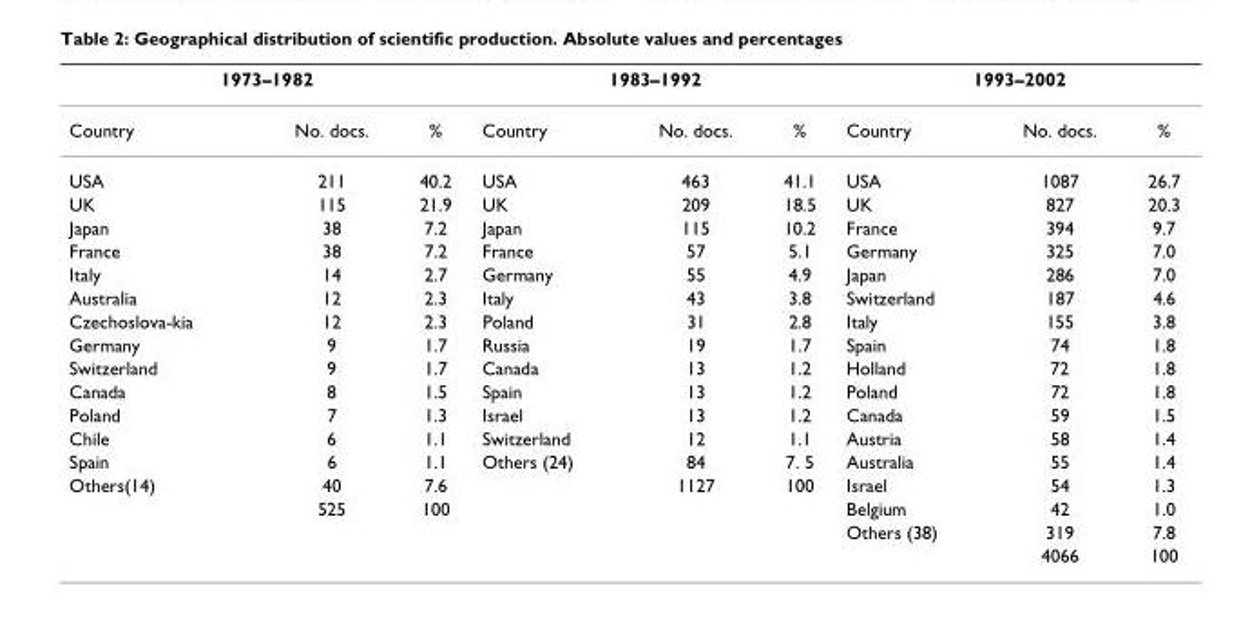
<table><thead><tr><td colspan="3">1973–1982</td><td colspan="3">1983–1992</td><td colspan="3">1993–2002</td></tr><tr><td>Country</td><td>No. docs.</td><td>%</td><td>Country</td><td>No. docs.</td><td>%</td><td>Country</td><td>No. docs.</td><td>%</td></tr></thead><tbody><tr><td>USA</td><td>211</td><td>40.2</td><td>USA</td><td>463</td><td>41.1</td><td>USA</td><td>1087</td><td>26.7</td></tr><tr><td>UK</td><td>115</td><td>21.9</td><td>UK</td><td>209</td><td>18.5</td><td>UK</td><td>827</td><td>20.3</td></tr><tr><td>Japan</td><td>38</td><td>7.2</td><td>Japan</td><td>115</td><td>10.2</td><td>France</td><td>394</td><td>9.7</td></tr><tr><td>France</td><td>38</td><td>7.2</td><td>France</td><td>57</td><td>5.1</td><td>Germany</td><td>325</td><td>7.0</td></tr><tr><td>Italy</td><td>14</td><td>2.7</td><td>Germany</td><td>55</td><td>4.9</td><td>Japan</td><td>286</td><td>7.0</td></tr><tr><td>Australia</td><td>12</td><td>2.3</td><td>Italy</td><td>43</td><td>3.8</td><td>Switzerland</td><td>187</td><td>4.6</td></tr><tr><td>Czechoslova-kia</td><td>12</td><td>2.3</td><td>Poland</td><td>31</td><td>2.8</td><td>Italy</td><td>155</td><td>3.8</td></tr><tr><td>Germany</td><td>9</td><td>1.7</td><td>Russia</td><td>19</td><td>1.7</td><td>Spain</td><td>74</td><td>1.8</td></tr><tr><td>Switzerland</td><td>9</td><td>1.7</td><td>Canada</td><td>13</td><td>1.2</td><td>Holland</td><td>72</td><td>1.8</td></tr><tr><td>Canada</td><td>8</td><td>1.5</td><td>Spain</td><td>13</td><td>1.2</td><td>Poland</td><td>72</td><td>1.8</td></tr><tr><td>Poland</td><td>7</td><td>1.3</td><td>Israel</td><td>13</td><td>1.2</td><td>Canada</td><td>59</td><td>1.5</td></tr><tr><td>Chile</td><td>6</td><td>1.1</td><td>Switzerland</td><td>12</td><td>1.1</td><td>Austria</td><td>58</td><td>1.4</td></tr><tr><td>Spain</td><td>6</td><td>1.1</td><td>Others (24)</td><td>84</td><td>7. 5</td><td>Australia</td><td>55</td><td>1.4</td></tr><tr><td rowspan="4">Others(14)</td><td>40</td><td>7.6</td><td></td><td>1127</td><td>100</td><td>Israel</td><td>54</td><td>1.3</td></tr><tr><td>525</td><td>100</td><td></td><td></td><td></td><td>Belgium</td><td>42</td><td>1.0</td></tr><tr><td></td><td></td><td></td><td></td><td></td><td>Others (38)</td><td>319</td><td>7.8</td></tr><tr><td></td><td></td><td></td><td></td><td></td><td></td><td>4066</td><td>100</td></tr></tbody></table>